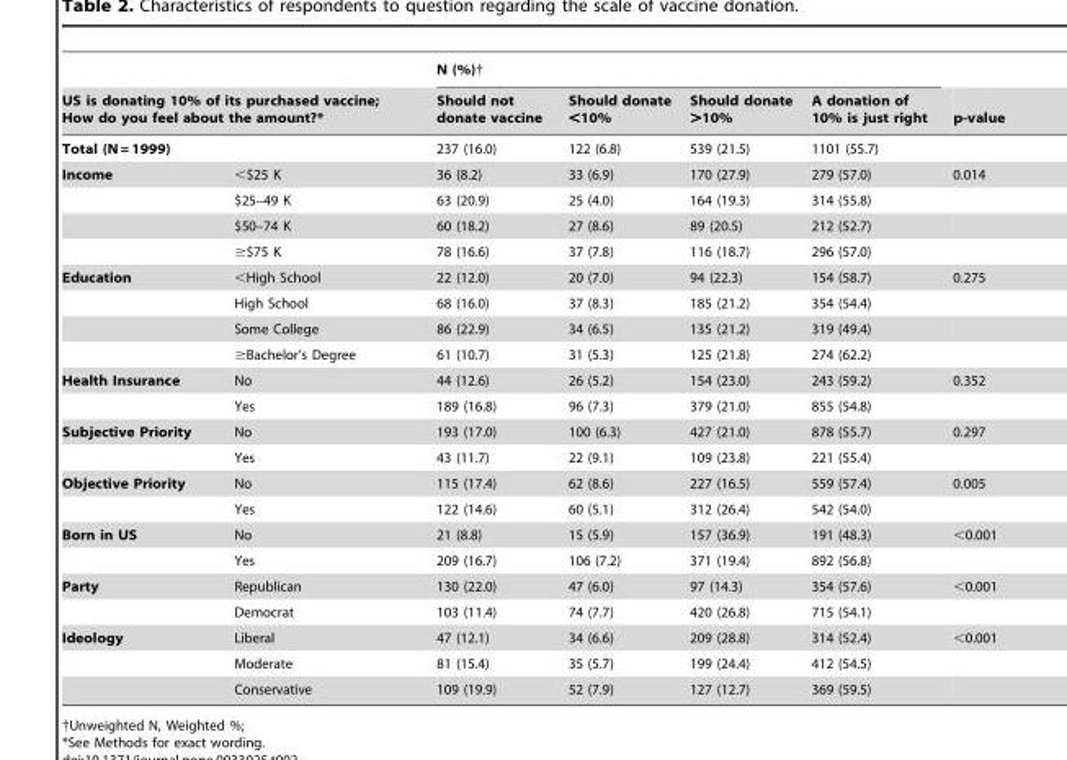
<table><thead><tr><td></td><td></td><td colspan="4">N (%)†</td><td rowspan="2">p-value</td></tr><tr><td colspan="2">US is donating 10% of its purchased vaccine; How do you feel about the amount?*</td><td>Should not donate vaccine</td><td>Should donate &lt;10%</td><td>Should donate &gt;10%</td><td>A donation of 10% is just right</td></tr></thead><tbody><tr><td>Total (N = 1999)</td><td></td><td>237 (16.0)</td><td>122 (6.8)</td><td>539 (21.5)</td><td>1101 (55.7)</td><td></td></tr><tr><td rowspan="4">Income</td><td>&lt;$25 K</td><td>36 (8.2)</td><td>33 (6.9)</td><td>170 (27.9)</td><td>279 (57.0)</td><td>0.014</td></tr><tr><td>$25–49 K</td><td>63 (20.9)</td><td>25 (4.0)</td><td>164 (19.3)</td><td>314 (55.8)</td><td></td></tr><tr><td>$50–74 K</td><td>60 (18.2)</td><td>27 (8.6)</td><td>89 (20.5)</td><td>212 (52.7)</td><td></td></tr><tr><td>≥$75 K</td><td>78 (16.6)</td><td>37 (7.8)</td><td>116 (18.7)</td><td>296 (57.0)</td><td></td></tr><tr><td rowspan="4">Education</td><td>&lt;High School</td><td>22 (12.0)</td><td>20 (7.0)</td><td>94 (22.3)</td><td>154 (58.7)</td><td>0.275</td></tr><tr><td>High School</td><td>68 (16.0)</td><td>37 (8.3)</td><td>185 (21.2)</td><td>354 (54.4)</td><td></td></tr><tr><td>Some College</td><td>86 (22.9)</td><td>34 (6.5)</td><td>135 (21.2)</td><td>319 (49.4)</td><td></td></tr><tr><td>≥Bachelor’s Degree</td><td>61 (10.7)</td><td>31 (5.3)</td><td>125 (21.8)</td><td>274 (62.2)</td><td></td></tr><tr><td rowspan="2">Health Insurance</td><td>No</td><td>44 (12.6)</td><td>26 (5.2)</td><td>154 (23.0)</td><td>243 (59.2)</td><td>0.352</td></tr><tr><td>Yes</td><td>189 (16.8)</td><td>96 (7.3)</td><td>379 (21.0)</td><td>855 (54.8)</td><td></td></tr><tr><td rowspan="2">Subjective Priority</td><td>No</td><td>193 (17.0)</td><td>100 (6.3)</td><td>427 (21.0)</td><td>878 (55.7)</td><td>0.297</td></tr><tr><td>Yes</td><td>43 (11.7)</td><td>22 (9.1)</td><td>109 (23.8)</td><td>221 (55.4)</td><td></td></tr><tr><td rowspan="2">Objective Priority</td><td>No</td><td>115 (17.4)</td><td>62 (8.6)</td><td>227 (16.5)</td><td>559 (57.4)</td><td>0.005</td></tr><tr><td>Yes</td><td>122 (14.6)</td><td>60 (5.1)</td><td>312 (26.4)</td><td>542 (54.0)</td><td></td></tr><tr><td rowspan="2">Born in US</td><td>No</td><td>21 (8.8)</td><td>15 (5.9)</td><td>157 (36.9)</td><td>191 (48.3)</td><td>&lt;0.001</td></tr><tr><td>Yes</td><td>209 (16.7)</td><td>106 (7.2)</td><td>371 (19.4)</td><td>892 (56.8)</td><td></td></tr><tr><td rowspan="2">Party</td><td>Republican</td><td>130 (22.0)</td><td>47 (6.0)</td><td>97 (14.3)</td><td>354 (57.6)</td><td>&lt;0.001</td></tr><tr><td>Democrat</td><td>103 (11.4)</td><td>74 (7.7)</td><td>420 (26.8)</td><td>715 (54.1)</td><td></td></tr><tr><td rowspan="3">Ideology</td><td>Liberal</td><td>47 (12.1)</td><td>34 (6.6)</td><td>209 (28.8)</td><td>314 (52.4)</td><td>&lt;0.001</td></tr><tr><td>Moderate</td><td>81 (15.4)</td><td>35 (5.7)</td><td>199 (24.4)</td><td>412 (54.5)</td><td></td></tr><tr><td>Conservative</td><td>109 (19.9)</td><td>52 (7.9)</td><td>127 (12.7)</td><td>369 (59.5)</td><td></td></tr></tbody></table>